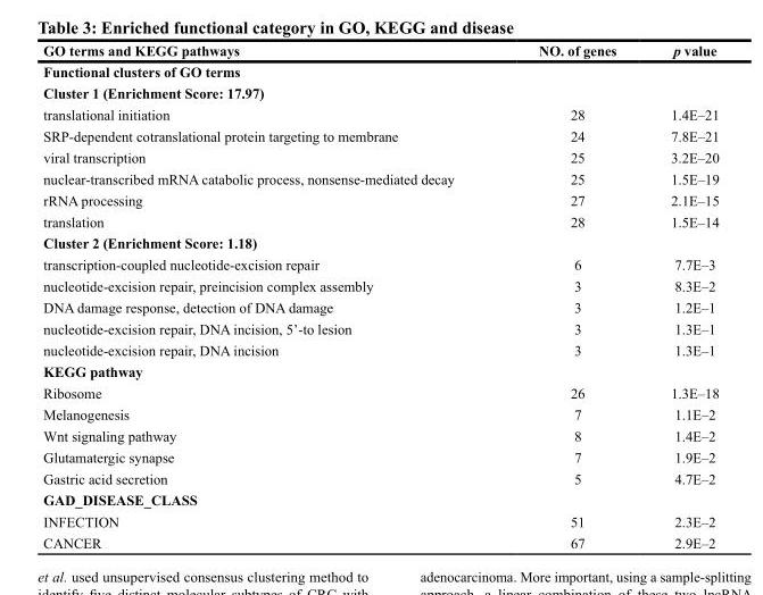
<table><thead><tr><td>GO terms and KEGG pathways</td><td>NO. of genes</td><td>p value</td></tr></thead><tbody><tr><td colspan="3">Functional clusters of GO terms</td></tr><tr><td colspan="3">Cluster 1 (Enrichment Score: 17.97)</td></tr><tr><td>translational initiation</td><td>28</td><td>1.4E–21</td></tr><tr><td>SRP-dependent cotranslational protein targeting to membrane</td><td>24</td><td>7.8E–21</td></tr><tr><td>viral transcription</td><td>25</td><td>3.2E–20</td></tr><tr><td>nuclear-transcribed mRNA catabolic process, nonsense-mediated decay</td><td>25</td><td>1.5E–19</td></tr><tr><td>rRNA processing</td><td>27</td><td>2.1E–15</td></tr><tr><td>translation</td><td>28</td><td>1.5E–14</td></tr><tr><td colspan="3">Cluster 2 (Enrichment Score: 1.18)</td></tr><tr><td>transcription-coupled nucleotide-excision repair</td><td>6</td><td>7.7E–3</td></tr><tr><td>nucleotide-excision repair, preincision complex assembly</td><td>3</td><td>8.3E–2</td></tr><tr><td>DNA damage response, detection of DNA damage</td><td>3</td><td>1.2E–1</td></tr><tr><td>nucleotide-excision repair, DNA incision, 5’-to lesion</td><td>3</td><td>1.3E–1</td></tr><tr><td>nucleotide-excision repair, DNA incision</td><td>3</td><td>1.3E–1</td></tr><tr><td colspan="3">KEGG pathway</td></tr><tr><td>Ribosome</td><td>26</td><td>1.3E–18</td></tr><tr><td>Melanogenesis</td><td>7</td><td>1.1E–2</td></tr><tr><td>Wnt signaling pathway</td><td>8</td><td>1.4E–2</td></tr><tr><td>Glutamatergic synapse</td><td>7</td><td>1.9E–2</td></tr><tr><td>Gastric acid secretion</td><td>5</td><td>4.7E–2</td></tr><tr><td colspan="3">GAD_DISEASE_CLASS</td></tr><tr><td>INFECTION</td><td>51</td><td>2.3E–2</td></tr><tr><td>CANCER</td><td>67</td><td>2.9E–2</td></tr></tbody></table>